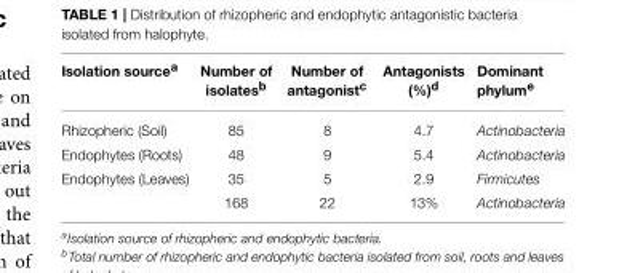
<table><thead><tr><td>Isolation source<sup>a</sup></td><td>Number of isolates<sup>b</sup></td><td>Number of antagonist<sup>c</sup></td><td>Antagonists (%)<sup>d</sup></td><td>Dominant phylum<sup>e</sup></td></tr></thead><tbody><tr><td>Rhizopheric (Soil)</td><td>85</td><td>8</td><td>4.7</td><td>Actinobacteria</td></tr><tr><td>Endophytes (Roots)</td><td>48</td><td>9</td><td>5.4</td><td>Actinobacteria</td></tr><tr><td rowspan="2">Endophytes (Leaves)</td><td>35</td><td>5</td><td>2.9</td><td>Firmicutes</td></tr><tr><td>168</td><td>22</td><td>13%</td><td>Actinobacteria</td></tr></tbody></table>